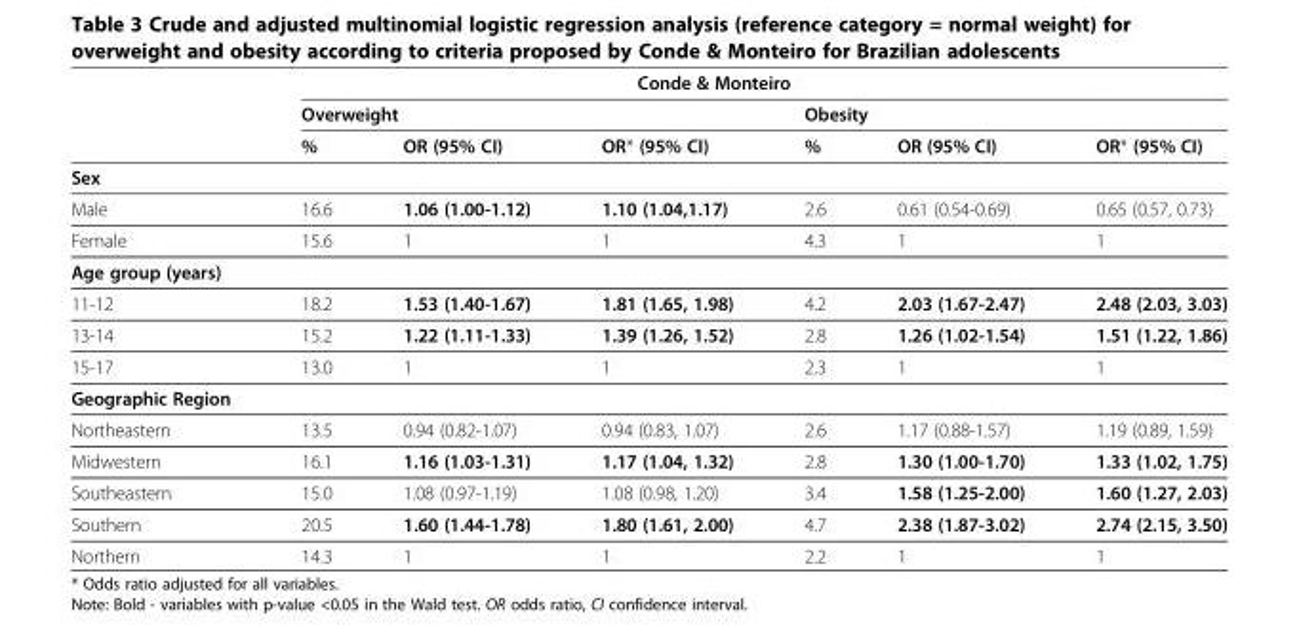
<table><thead><tr><td rowspan="3"></td><td></td><td colspan="4">Conde &amp; Monteiro</td><td></td></tr><tr><td colspan="3">Overweight</td><td colspan="3">Obesity</td></tr><tr><td>%</td><td>OR (95% CI)</td><td>OR* (95% CI)</td><td>%</td><td>OR (95% CI)</td><td>OR* (95% CI)</td></tr></thead><tbody><tr><td colspan="7">Sex</td></tr><tr><td>Male</td><td>16.6</td><td>1.06 (1.00-1.12)</td><td>1.10 (1.04,1.17)</td><td>2.6</td><td>0.61 (0.54-0.69)</td><td>0.65 (0.57, 0.73)</td></tr><tr><td>Female</td><td>15.6</td><td>1</td><td>1</td><td>4.3</td><td>1</td><td>1</td></tr><tr><td colspan="7">Age group (years)</td></tr><tr><td>11-12</td><td>18.2</td><td>1.53 (1.40-1.67)</td><td>1.81 (1.65, 1.98)</td><td>4.2</td><td>2.03 (1.67-2.47)</td><td>2.48 (2.03, 3.03)</td></tr><tr><td>13-14</td><td>15.2</td><td>1.22 (1.11-1.33)</td><td>1.39 (1.26, 1.52)</td><td>2.8</td><td>1.26 (1.02-1.54)</td><td>1.51 (1.22, 1.86)</td></tr><tr><td>15-17</td><td>13.0</td><td>1</td><td>1</td><td>2.3</td><td>1</td><td>1</td></tr><tr><td colspan="7">Geographic Region</td></tr><tr><td>Northeastern</td><td>13.5</td><td>0.94 (0.82-1.07)</td><td>0.94 (0.83, 1.07)</td><td>2.6</td><td>1.17 (0.88-1.57)</td><td>1.19 (0.89, 1.59)</td></tr><tr><td>Midwestern</td><td>16.1</td><td>1.16 (1.03-1.31)</td><td>1.17 (1.04, 1.32)</td><td>2.8</td><td>1.30 (1.00-1.70)</td><td>1.33 (1.02, 1.75)</td></tr><tr><td>Southeastern</td><td>15.0</td><td>1.08 (0.97-1.19)</td><td>1.08 (0.98, 1.20)</td><td>3.4</td><td>1.58 (1.25-2.00)</td><td>1.60 (1.27, 2.03)</td></tr><tr><td>Southern</td><td>20.5</td><td>1.60 (1.44-1.78)</td><td>1.80 (1.61, 2.00)</td><td>4.7</td><td>2.38 (1.87-3.02)</td><td>2.74 (2.15, 3.50)</td></tr><tr><td>Northern</td><td>14.3</td><td>1</td><td>1</td><td>2.2</td><td>1</td><td>1</td></tr></tbody></table>